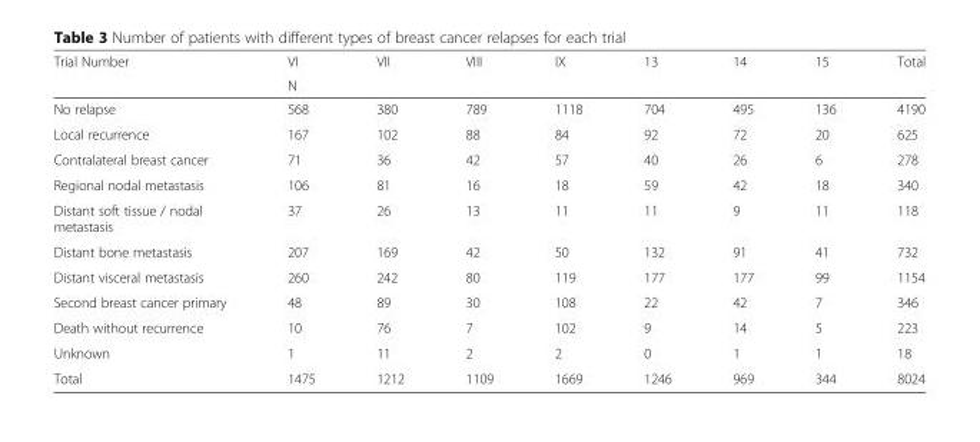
<table><thead><tr><td rowspan="2">Trial Number</td><td>VI</td><td>VII</td><td>VIII</td><td>IX</td><td>13</td><td>14</td><td>15</td><td rowspan="2">Total</td></tr><tr><td colspan="7">N</td></tr></thead><tbody><tr><td>No relapse</td><td>568</td><td>380</td><td>789</td><td>1118</td><td>704</td><td>495</td><td>136</td><td>4190</td></tr><tr><td>Local recurrence</td><td>167</td><td>102</td><td>88</td><td>84</td><td>92</td><td>72</td><td>20</td><td>625</td></tr><tr><td>Contralateral breast cancer</td><td>71</td><td>36</td><td>42</td><td>57</td><td>40</td><td>26</td><td>6</td><td>278</td></tr><tr><td>Regional nodal metastasis</td><td>106</td><td>81</td><td>16</td><td>18</td><td>59</td><td>42</td><td>18</td><td>340</td></tr><tr><td>Distant soft tissue / nodal metastasis</td><td>37</td><td>26</td><td>13</td><td>11</td><td>11</td><td>9</td><td>11</td><td>118</td></tr><tr><td>Distant bone metastasis</td><td>207</td><td>169</td><td>42</td><td>50</td><td>132</td><td>91</td><td>41</td><td>732</td></tr><tr><td>Distant visceral metastasis</td><td>260</td><td>242</td><td>80</td><td>119</td><td>177</td><td>177</td><td>99</td><td>1154</td></tr><tr><td>Second breast cancer primary</td><td>48</td><td>89</td><td>30</td><td>108</td><td>22</td><td>42</td><td>7</td><td>346</td></tr><tr><td>Death without recurrence</td><td>10</td><td>76</td><td>7</td><td>102</td><td>9</td><td>14</td><td>5</td><td>223</td></tr><tr><td>Unknown</td><td>1</td><td>11</td><td>2</td><td>2</td><td>0</td><td>1</td><td>1</td><td>18</td></tr><tr><td>Total</td><td>1475</td><td>1212</td><td>1109</td><td>1669</td><td>1246</td><td>969</td><td>344</td><td>8024</td></tr></tbody></table>